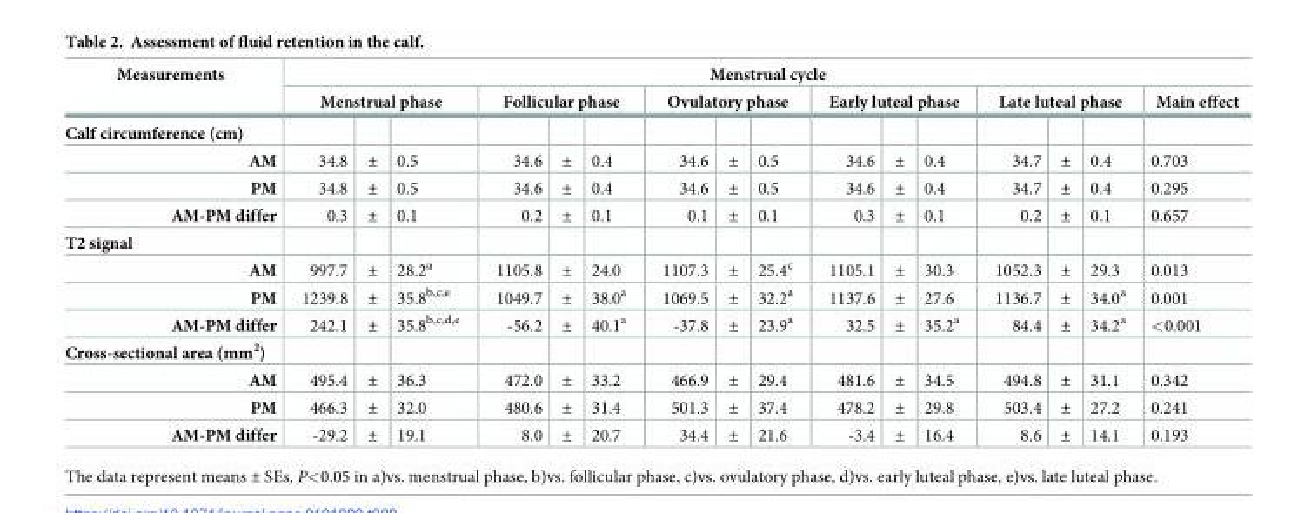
<table><thead><tr><td rowspan="3">Measurements Calf circumference (cm)</td><td colspan="16">Menstrual cycle</td></tr><tr><td colspan="3">Menstrual phase</td><td colspan="3">Follicular phase</td><td colspan="3">Ovulatory phase</td><td colspan="3">Early luteal phase</td><td colspan="3">Late luteal phase</td><td rowspan="2">Main effect</td></tr><tr><td></td><td></td><td></td><td></td><td></td><td></td><td></td><td></td><td></td><td></td><td></td><td></td><td></td><td></td><td></td></tr></thead><tbody><tr><td>AM</td><td>34.8</td><td>±</td><td>0.5</td><td>34.6</td><td>±</td><td>0.4</td><td>34.6</td><td>±</td><td>0.5</td><td>34.6</td><td>±</td><td>0.4</td><td>34.7</td><td>±</td><td>0.4</td><td>0.703</td></tr><tr><td>PM</td><td>34.8</td><td>±</td><td>0.5</td><td>34.6</td><td>±</td><td>0.4</td><td>34.6</td><td>±</td><td>0.5</td><td>34.6</td><td>±</td><td>0.4</td><td>34.7</td><td>±</td><td>0.4</td><td>0.295</td></tr><tr><td>AM-PM differ</td><td>0.3</td><td>±</td><td>0.1</td><td>0.2</td><td>±</td><td>0.1</td><td>0.1</td><td>±</td><td>0.1</td><td>0.3</td><td>±</td><td>0.1</td><td>0.2</td><td>±</td><td>0.1</td><td>0.657</td></tr><tr><td colspan="17">T2 signal</td></tr><tr><td>AM</td><td>997.7</td><td>±</td><td>28.2<sup>a</sup></td><td>1105.8</td><td>±</td><td>24.0</td><td>1107.3</td><td>±</td><td>25.4<sup>c</sup></td><td>1105.1</td><td>±</td><td>30.3</td><td>1052.3</td><td>±</td><td>29.3</td><td>0.013</td></tr><tr><td>PM</td><td>1239.8</td><td>±</td><td>35.8<sup>b,c,e</sup></td><td>1049.7</td><td>±</td><td>38.0<sup>a</sup></td><td>1069.5</td><td>±</td><td>32.2<sup>a</sup></td><td>1137.6</td><td>±</td><td>27.6</td><td>1136.7</td><td>±</td><td>34.0<sup>a</sup></td><td>0.001</td></tr><tr><td>AM-PM differ</td><td>242.1</td><td>±</td><td>35.8<sup>b,c,d,e</sup></td><td>-56.2</td><td>±</td><td>40.1<sup>a</sup></td><td>-37.8</td><td>±</td><td>23.9<sup>a</sup></td><td>32.5</td><td>±</td><td>35.2<sup>a</sup></td><td>84.4</td><td>±</td><td>34.2<sup>a</sup></td><td>&lt;0.001</td></tr><tr><td colspan="17">Cross-sectional area (mm<sup>2</sup>)</td></tr><tr><td>AM</td><td>495.4</td><td>±</td><td>36.3</td><td>472.0</td><td>±</td><td>33.2</td><td>466.9</td><td>±</td><td>29.4</td><td>481.6</td><td>±</td><td>34.5</td><td>494.8</td><td>±</td><td>31.1</td><td>0.342</td></tr><tr><td>PM</td><td>466.3</td><td>±</td><td>32.0</td><td>480.6</td><td>±</td><td>31.4</td><td>501.3</td><td>±</td><td>37.4</td><td>478.2</td><td>±</td><td>29.8</td><td>503.4</td><td>±</td><td>27.2</td><td>0.241</td></tr><tr><td>AM-PM differ</td><td>-29.2</td><td>±</td><td>19.1</td><td>8.0</td><td>±</td><td>20.7</td><td>34.4</td><td>±</td><td>21.6</td><td>-3.4</td><td>±</td><td>16.4</td><td>8.6</td><td>±</td><td>14.1</td><td>0.193</td></tr></tbody></table>